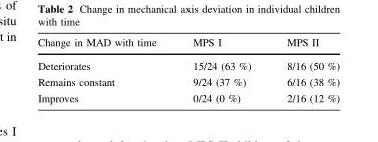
<table><thead><tr><td>Change in MAD with time</td><td>MPS I</td><td>MPS II</td></tr></thead><tbody><tr><td>Deteriorates</td><td>15/24 (63 %)</td><td>8/16 (50 %)</td></tr><tr><td>Remains constant</td><td>9/24 (37 %)</td><td>6/16 (38 %)</td></tr><tr><td>Improves</td><td>0/24 (0 %)</td><td>2/16 (12 %)</td></tr></tbody></table>